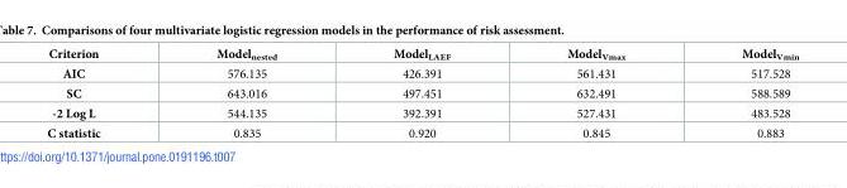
<table><thead><tr><td>Criterion</td><td>Model<sub>nested</sub></td><td>Model<sub>LAEF</sub></td><td>Model<sub>Vmax</sub></td><td>Model<sub>Vmin</sub></td></tr></thead><tbody><tr><td>AIC</td><td>576.135</td><td>426.391</td><td>561.431</td><td>517.528</td></tr><tr><td>SC</td><td>643.016</td><td>497.451</td><td>632.491</td><td>588.589</td></tr><tr><td>-2 Log L</td><td>544.135</td><td>392.391</td><td>527.431</td><td>483.528</td></tr><tr><td>C statistic</td><td>0.835</td><td>0.920</td><td>0.845</td><td>0.883</td></tr></tbody></table>